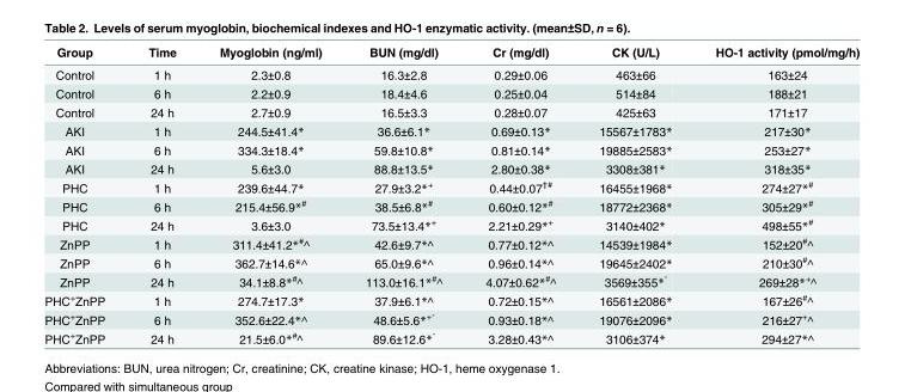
<table><thead><tr><td>Group</td><td>Time</td><td>Myoglobin (ng/ml)</td><td>BUN (mg/dl)</td><td>Cr (mg/dl)</td><td>CK (U/L)</td><td>HO-1 activity (pmol/mg/h)</td></tr></thead><tbody><tr><td>Control</td><td>1 h</td><td>2.3±0.8</td><td>16.3±2.8</td><td>0.29±0.06</td><td>463±66</td><td>163±24</td></tr><tr><td>Control</td><td>6 h</td><td>2.2±0.9</td><td>18.4±4.6</td><td>0.25±0.04</td><td>514±84</td><td>188±21</td></tr><tr><td>Control</td><td>24 h</td><td>2.7±0.9</td><td>16.5±3.3</td><td>0.28±0.07</td><td>425±63</td><td>171±17</td></tr><tr><td>AKI</td><td>1 h</td><td>244.5±41.4*</td><td>36.6±6.1*</td><td>0.69±0.13*</td><td>15567±1783*</td><td>217±30*</td></tr><tr><td>AKI</td><td>6 h</td><td>334.3±18.4*</td><td>59.8±10.8*</td><td>0.81±0.14*</td><td>19885±2583*</td><td>253±27*</td></tr><tr><td>AKI</td><td>24 h</td><td>5.6±3.0</td><td>88.8±13.5*</td><td>2.80±0.38*</td><td>3308±381*</td><td>318±35*</td></tr><tr><td>PHC</td><td>1 h</td><td>239.6±44.7*</td><td>27.9±3.2*<sup>+</sup></td><td>0.44±0.07<sup>†#</sup></td><td>16455±1968*</td><td>274±27*<sup>#</sup></td></tr><tr><td>PHC</td><td>6 h</td><td>215.4±56.9*<sup>#</sup></td><td>38.5±6.8*<sup>#</sup></td><td>0.60±0.12*<sup>#</sup></td><td>18772±2368*</td><td>305±29*<sup>#</sup></td></tr><tr><td>PHC</td><td>24 h</td><td>3.6±3.0</td><td>73.5±13.4*<sup>+</sup></td><td>2.21±0.29*<sup>+</sup></td><td>3140±402*</td><td>498±55*<sup>#</sup></td></tr><tr><td>ZnPP</td><td>1 h</td><td>311.4±41.2*#^</td><td>42.6±9.7*^</td><td>0.77±0.12*^</td><td>14539±1984*</td><td>152±20#^</td></tr><tr><td>ZnPP</td><td>6 h</td><td>362.7±14.6*^</td><td>65.0±9.6*^</td><td>0.96±0.14*^</td><td>19645±2402*</td><td>210±30#^</td></tr><tr><td>ZnPP</td><td>24 h</td><td>34.1±8.8*#^</td><td>113.0±16.1*#^</td><td>4.07±0.62*#^</td><td>3569±355*<sup>˅</sup></td><td>269±28*+^</td></tr><tr><td>PHC<sup>+</sup>ZnPP</td><td>1 h</td><td>274.7±17.3*</td><td>37.9±6.1*^</td><td>0.72±0.15*^</td><td>16561±2086*</td><td>167±26#^</td></tr><tr><td>PHC<sup>+</sup>ZnPP</td><td>6 h</td><td>352.6±22.4*^</td><td>48.6±5.6*<sup>+˅</sup></td><td>0.93±0.18*^</td><td>19076±2096*</td><td>216±27+^</td></tr><tr><td>PHC<sup>+</sup>ZnPP</td><td>24 h</td><td>21.5±6.0*#^</td><td>89.6±12.6*<sup>˅</sup></td><td>3.28±0.43*^</td><td>3106±374*</td><td>294±27*^</td></tr></tbody></table>